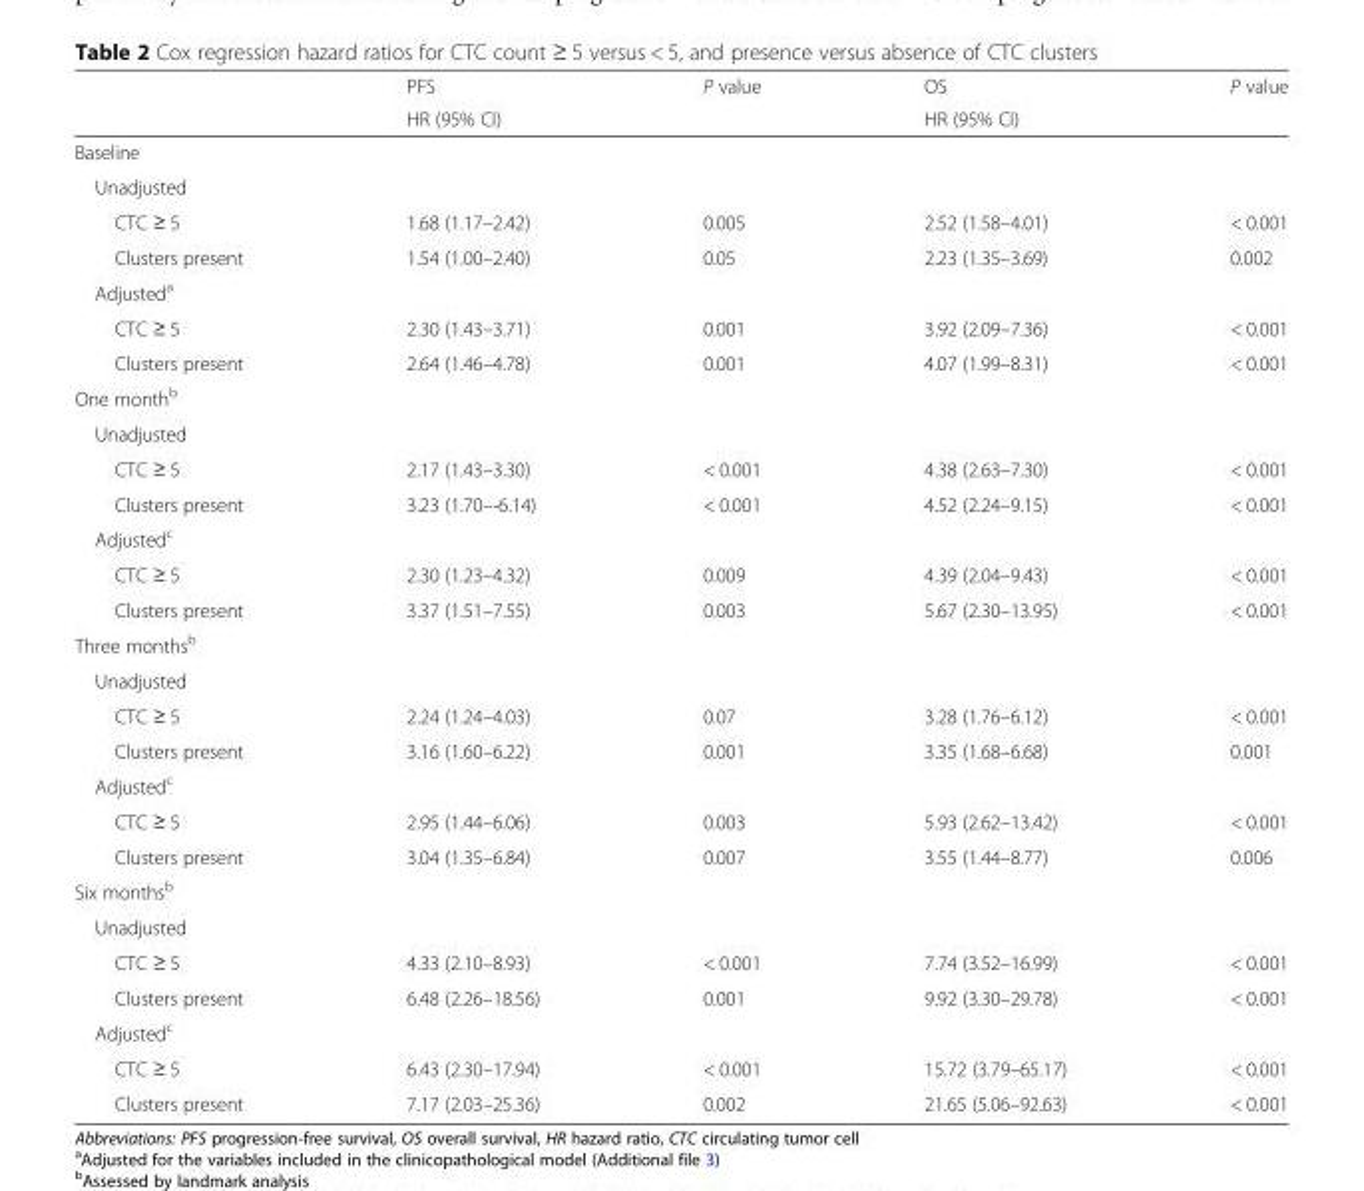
<table><thead><tr><td rowspan="2"></td><td rowspan="2">PFS HR (95% CI)</td><td rowspan="2">P value</td><td rowspan="2">OS HR (95% CI)</td><td rowspan="2">P value</td></tr><tr></tr></thead><tbody><tr><td colspan="5">Baseline</td></tr><tr><td colspan="5">Unadjusted</td></tr><tr><td>CTC ≥ 5</td><td>1.68 (1.17–2.42)</td><td>0.005</td><td>2.52 (1.58–4.01)</td><td>&lt; 0.001</td></tr><tr><td>Clusters present</td><td>1.54 (1.00–2.40)</td><td>0.05</td><td>2.23 (1.35–3.69)</td><td>0.002</td></tr><tr><td colspan="5">Adjusted<sup>a</sup></td></tr><tr><td>CTC ≥ 5</td><td>2.30 (1.43–3.71)</td><td>0.001</td><td>3.92 (2.09–7.36)</td><td>&lt; 0.001</td></tr><tr><td>Clusters present</td><td>2.64 (1.46–4.78)</td><td>0.001</td><td>4.07 (1.99–8.31)</td><td>&lt; 0.001</td></tr><tr><td colspan="5">One month<sup>b</sup></td></tr><tr><td colspan="5">Unadjusted</td></tr><tr><td>CTC ≥ 5</td><td>2.17 (1.43–3.30)</td><td>&lt; 0.001</td><td>4.38 (2.63–7.30)</td><td>&lt; 0.001</td></tr><tr><td>Clusters present</td><td>3.23 (1.70–-6.14)</td><td>&lt; 0.001</td><td>4.52 (2.24–9.15)</td><td>&lt; 0.001</td></tr><tr><td colspan="5">Adjusted<sup>c</sup></td></tr><tr><td>CTC ≥ 5</td><td>2.30 (1.23–4.32)</td><td>0.009</td><td>4.39 (2.04–9.43)</td><td>&lt; 0.001</td></tr><tr><td>Clusters present</td><td>3.37 (1.51–7.55)</td><td>0.003</td><td>5.67 (2.30–13.95)</td><td>&lt; 0.001</td></tr><tr><td colspan="5">Three months<sup>b</sup></td></tr><tr><td colspan="5">Unadjusted</td></tr><tr><td>CTC ≥ 5</td><td>2.24 (1.24–4.03)</td><td>0.07</td><td>3.28 (1.76–6.12)</td><td>&lt; 0.001</td></tr><tr><td>Clusters present</td><td>3.16 (1.60–6.22)</td><td>0.001</td><td>3.35 (1.68–6.68)</td><td>0.001</td></tr><tr><td colspan="5">Adjusted<sup>c</sup></td></tr><tr><td>CTC ≥ 5</td><td>2.95 (1.44–6.06)</td><td>0.003</td><td>5.93 (2.62–13.42)</td><td>&lt; 0.001</td></tr><tr><td>Clusters present</td><td>3.04 (1.35–6.84)</td><td>0.007</td><td>3.55 (1.44–8.77)</td><td>0.006</td></tr><tr><td colspan="5">Six months<sup>b</sup></td></tr><tr><td colspan="5">Unadjusted</td></tr><tr><td>CTC ≥ 5</td><td>4.33 (2.10–8.93)</td><td>&lt; 0.001</td><td>7.74 (3.52–16.99)</td><td>&lt; 0.001</td></tr><tr><td>Clusters present</td><td>6.48 (2.26–18.56)</td><td>0.001</td><td>9.92 (3.30–29.78)</td><td>&lt; 0.001</td></tr><tr><td colspan="5">Adjusted<sup>c</sup></td></tr><tr><td>CTC ≥ 5</td><td>6.43 (2.30–17.94)</td><td>&lt; 0.001</td><td>15.72 (3.79–65.17)</td><td>&lt; 0.001</td></tr><tr><td>Clusters present</td><td>7.17 (2.03–25.36)</td><td>0.002</td><td>21.65 (5.06–92.63)</td><td>&lt; 0.001</td></tr></tbody></table>